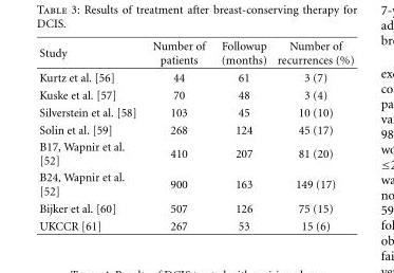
<table><thead><tr><td>Study</td><td>Number of patients</td><td>Followup (months)</td><td>Number of recurrences (%)</td></tr></thead><tbody><tr><td>Kurtz et al. [56]</td><td>44</td><td>61</td><td>3 (7)</td></tr><tr><td>Kuske et al. [57]</td><td>70</td><td>48</td><td>3 (4)</td></tr><tr><td>Silverstein et al. [58]</td><td>103</td><td>45</td><td>10 (10)</td></tr><tr><td>Solin et al. [59]</td><td>268</td><td>124</td><td>45 (17)</td></tr><tr><td>B17, Wapnir et al. [52]</td><td>410</td><td>207</td><td>81 (20)</td></tr><tr><td>B24, Wapnir et al. [52]</td><td>900</td><td>163</td><td>149 (17)</td></tr><tr><td>Bijker et al. [60]</td><td>507</td><td>126</td><td>75 (15)</td></tr><tr><td>UKCCR [61]</td><td>267</td><td>53</td><td>15 (6)</td></tr></tbody></table>